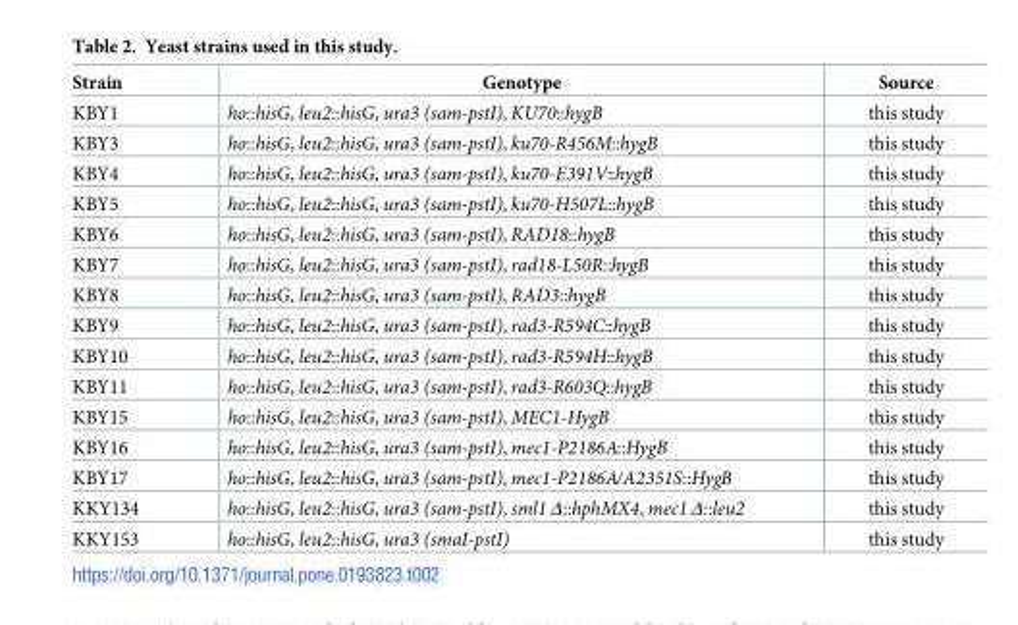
<table><thead><tr><td>Strain</td><td>Genotype</td><td>Source</td></tr></thead><tbody><tr><td>KBY1</td><td>ho::hisG, leu2::hisG, ura3 (sam-pstI), KU70::hygB</td><td>this study</td></tr><tr><td>KBY3</td><td>ho::hisG, leu2::hisG, ura3 (sam-pstI), ku70-R456M::hygB</td><td>this study</td></tr><tr><td>KBY4</td><td>ho::hisG, leu2::hisG, ura3 (sam-pstI), ku70-E391V::hygB</td><td>this study</td></tr><tr><td>KBY5</td><td>ho::hisG, leu2::hisG, ura3 (sam-pstI), ku70-H507L::hygB</td><td>this study</td></tr><tr><td>KBY6</td><td>ho::hisG, leu2::hisG, ura3 (sam-pstI), RAD18::hygB</td><td>this study</td></tr><tr><td>KBY7</td><td>ho::hisG, leu2::hisG, ura3 (sam-pstI), rad18-L50R::hygB</td><td>this study</td></tr><tr><td>KBY8</td><td>ho::hisG, leu2::hisG, ura3 (sam-pstI), RAD3::hygB</td><td>this study</td></tr><tr><td>KBY9</td><td>ho::hisG, leu2::hisG, ura3 (sam-pstI), rad3-R594C::hygB</td><td>this study</td></tr><tr><td>KBY10</td><td>ho::hisG, leu2::hisG, ura3 (sam-pstI), rad3-R594H::hygB</td><td>this study</td></tr><tr><td>KBY11</td><td>ho::hisG, leu2::hisG, ura3 (sam-pstI), rad3-R603Q::hygB</td><td>this study</td></tr><tr><td>KBY15</td><td>ho::hisG, leu2::hisG, ura3 (sam-pstI), MEC1-HygB</td><td>this study</td></tr><tr><td>KBY16</td><td>ho::hisG, leu2::hisG, ura3 (sam-pstI), mec1-P2186A::HygB</td><td>this study</td></tr><tr><td>KBY17</td><td>ho::hisG, leu2::hisG, ura3 (sam-pstI), mec1-P2186A/A2351S::HygB</td><td>this study</td></tr><tr><td>KKY134</td><td>ho::hisG, leu2::hisG, ura3 (sam-pstI), sml1 Δ::hphMX4, mec1 Δ::leu2</td><td>this study</td></tr><tr><td>KKY153</td><td>ho::hisG, leu2::hisG, ura3 (smaI-pstI)</td><td>this study</td></tr></tbody></table>